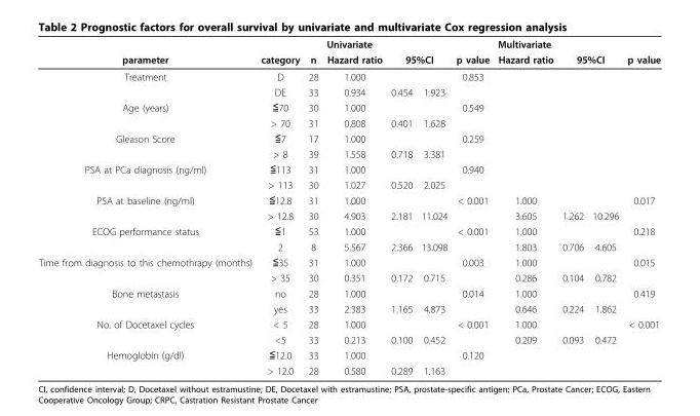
<table><thead><tr><td rowspan="3">parameter Treatment</td><td rowspan="3">category D</td><td rowspan="3">n 28</td><td colspan="2">Univariate</td><td></td><td rowspan="3">p value 0.853</td><td colspan="2">Multivariate</td><td></td><td rowspan="3">p value</td></tr><tr><td rowspan="2">Hazard ratio 1.000</td><td colspan="2">95%CI</td><td rowspan="2">Hazard ratio</td><td colspan="2">95%CI</td></tr><tr><td></td><td></td><td></td><td></td></tr></thead><tbody><tr><td></td><td>DE</td><td>33</td><td>0.934</td><td>0.454</td><td>1.923</td><td></td><td></td><td></td><td></td><td></td></tr><tr><td rowspan="2">Age (years)</td><td>≦70</td><td>30</td><td>1.000</td><td></td><td></td><td>0.549</td><td></td><td></td><td></td><td></td></tr><tr><td>&gt; 70</td><td>31</td><td>0.808</td><td>0.401</td><td>1.628</td><td></td><td></td><td></td><td></td><td></td></tr><tr><td rowspan="2">Gleason Score</td><td>≦7</td><td>17</td><td>1.000</td><td></td><td></td><td>0.259</td><td></td><td></td><td></td><td></td></tr><tr><td>&gt; 8</td><td>39</td><td>1.558</td><td>0.718</td><td>3.381</td><td></td><td></td><td></td><td></td><td></td></tr><tr><td rowspan="2">PSA at PCa diagnosis (ng/ml)</td><td>≦113</td><td>31</td><td>1.000</td><td></td><td></td><td>0.940</td><td></td><td></td><td></td><td></td></tr><tr><td>&gt; 113</td><td>30</td><td>1.027</td><td>0.520</td><td>2.025</td><td></td><td></td><td></td><td></td><td></td></tr><tr><td rowspan="2">PSA at baseline (ng/ml)</td><td>≦12.8</td><td>31</td><td>1.000</td><td></td><td></td><td>&lt; 0.001</td><td>1.000</td><td></td><td></td><td>0.017</td></tr><tr><td>&gt; 12.8</td><td>30</td><td>4.903</td><td>2.181</td><td>11.024</td><td></td><td>3.605</td><td>1.262</td><td>10.296</td><td></td></tr><tr><td rowspan="2">ECOG performance status</td><td>≦1</td><td>53</td><td>1.000</td><td></td><td></td><td>&lt; 0.001</td><td>1.000</td><td></td><td></td><td>0.218</td></tr><tr><td>2</td><td>8</td><td>5.567</td><td>2.366</td><td>13.098</td><td></td><td>1.803</td><td>0.706</td><td>4.605</td><td></td></tr><tr><td rowspan="2">Time from diagnosis to this chemothrapy (months)</td><td>≦35</td><td>31</td><td>1.000</td><td></td><td></td><td>0.003</td><td>1.000</td><td></td><td></td><td>0.015</td></tr><tr><td>&gt; 35</td><td>30</td><td>0.351</td><td>0.172</td><td>0.715</td><td></td><td>0.286</td><td>0.104</td><td>0.782</td><td></td></tr><tr><td rowspan="2">Bone metastasis</td><td>no</td><td>28</td><td>1.000</td><td></td><td></td><td>0.014</td><td>1.000</td><td></td><td></td><td>0.419</td></tr><tr><td>yes</td><td>33</td><td>2.383</td><td>1.165</td><td>4.873</td><td></td><td>0.646</td><td>0.224</td><td>1.862</td><td></td></tr><tr><td rowspan="2">No. of Docetaxel cycles</td><td>&lt; 5</td><td>28</td><td>1.000</td><td></td><td></td><td>&lt; 0.001</td><td>1.000</td><td></td><td></td><td>&lt; 0.001</td></tr><tr><td>&lt;5</td><td>33</td><td>0.213</td><td>0.100</td><td>0.452</td><td></td><td>0.209</td><td>0.093</td><td>0.472</td><td></td></tr><tr><td rowspan="2">Hemoglobin (g/dl)</td><td>≦12.0</td><td>33</td><td>1.000</td><td></td><td></td><td>0.120</td><td></td><td></td><td></td><td></td></tr><tr><td>&gt; 12.0</td><td>28</td><td>0.580</td><td>0.289</td><td>1.163</td><td></td><td></td><td></td><td></td><td></td></tr></tbody></table>